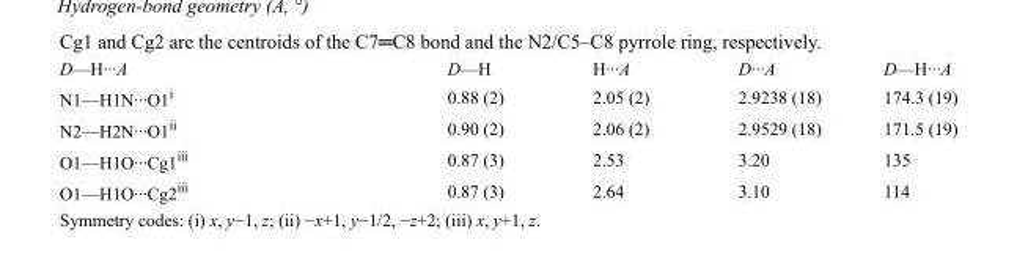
<table><tbody><tr><td>D—H···A</td><td>D—H</td><td>H···A</td><td>D···A</td><td>D—H···A</td></tr><tr><td>N1—H1N···O1<sup>i</sup></td><td>0.88 (2)</td><td>2.05 (2)</td><td>2.9238 (18)</td><td>174.3 (19)</td></tr><tr><td>N2—H2N···O1<sup>ii</sup></td><td>0.90 (2)</td><td>2.06 (2)</td><td>2.9529 (18)</td><td>171.5 (19)</td></tr><tr><td>O1—H1O···Cg1<sup>iii</sup></td><td>0.87 (3)</td><td>2.53</td><td>3.20</td><td>135</td></tr><tr><td>O1—H1O···Cg2<sup>iii</sup></td><td>0.87 (3)</td><td>2.64</td><td>3.10</td><td>114</td></tr></tbody></table>